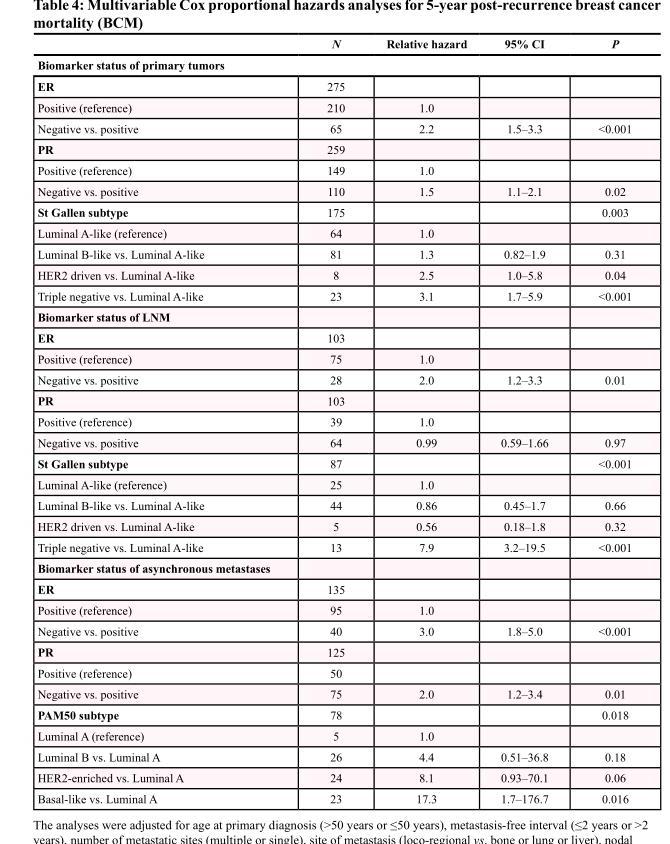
<table><thead><tr><td></td><td>N</td><td>Relative hazard</td><td>95% CI</td><td>P</td></tr></thead><tbody><tr><td colspan="5">Biomarker status of primary tumors</td></tr><tr><td>ER</td><td>275</td><td></td><td></td><td></td></tr><tr><td>Positive (reference)</td><td>210</td><td>1.0</td><td></td><td></td></tr><tr><td>Negative vs. positive</td><td>65</td><td>2.2</td><td>1.5–3.3</td><td>&lt;0.001</td></tr><tr><td>PR</td><td>259</td><td></td><td></td><td></td></tr><tr><td>Positive (reference)</td><td>149</td><td>1.0</td><td></td><td></td></tr><tr><td>Negative vs. positive</td><td>110</td><td>1.5</td><td>1.1–2.1</td><td>0.02</td></tr><tr><td>St Gallen subtype</td><td>175</td><td></td><td></td><td>0.003</td></tr><tr><td>Luminal A-like (reference)</td><td>64</td><td>1.0</td><td></td><td></td></tr><tr><td>Luminal B-like vs. Luminal A-like</td><td>81</td><td>1.3</td><td>0.82–1.9</td><td>0.31</td></tr><tr><td>HER2 driven vs. Luminal A-like</td><td>8</td><td>2.5</td><td>1.0–5.8</td><td>0.04</td></tr><tr><td>Triple negative vs. Luminal A-like</td><td>23</td><td>3.1</td><td>1.7–5.9</td><td>&lt;0.001</td></tr><tr><td colspan="5">Biomarker status of LNM</td></tr><tr><td>ER</td><td>103</td><td></td><td></td><td></td></tr><tr><td>Positive (reference)</td><td>75</td><td>1.0</td><td></td><td></td></tr><tr><td>Negative vs. positive</td><td>28</td><td>2.0</td><td>1.2–3.3</td><td>0.01</td></tr><tr><td>PR</td><td>103</td><td></td><td></td><td></td></tr><tr><td>Positive (reference)</td><td>39</td><td>1.0</td><td></td><td></td></tr><tr><td>Negative vs. positive</td><td>64</td><td>0.99</td><td>0.59–1.66</td><td>0.97</td></tr><tr><td>St Gallen subtype</td><td>87</td><td></td><td></td><td>&lt;0.001</td></tr><tr><td>Luminal A-like (reference)</td><td>25</td><td>1.0</td><td></td><td></td></tr><tr><td>Luminal B-like vs. Luminal A-like</td><td>44</td><td>0.86</td><td>0.45–1.7</td><td>0.66</td></tr><tr><td>HER2 driven vs. Luminal A-like</td><td>5</td><td>0.56</td><td>0.18–1.8</td><td>0.32</td></tr><tr><td>Triple negative vs. Luminal A-like</td><td>13</td><td>7.9</td><td>3.2–19.5</td><td>&lt;0.001</td></tr><tr><td colspan="5">Biomarker status of asynchronous metastases</td></tr><tr><td>ER</td><td>135</td><td></td><td></td><td></td></tr><tr><td>Positive (reference)</td><td>95</td><td>1.0</td><td></td><td></td></tr><tr><td>Negative vs. positive</td><td>40</td><td>3.0</td><td>1.8–5.0</td><td>&lt;0.001</td></tr><tr><td>PR</td><td>125</td><td></td><td></td><td></td></tr><tr><td>Positive (reference)</td><td>50</td><td></td><td></td><td></td></tr><tr><td>Negative vs. positive</td><td>75</td><td>2.0</td><td>1.2–3.4</td><td>0.01</td></tr><tr><td>PAM50 subtype</td><td>78</td><td></td><td></td><td>0.018</td></tr><tr><td>Luminal A (reference)</td><td>5</td><td>1.0</td><td></td><td></td></tr><tr><td>Luminal B vs. Luminal A</td><td>26</td><td>4.4</td><td>0.51–36.8</td><td>0.18</td></tr><tr><td>HER2-enriched vs. Luminal A</td><td>24</td><td>8.1</td><td>0.93–70.1</td><td>0.06</td></tr><tr><td>Basal-like vs. Luminal A</td><td>23</td><td>17.3</td><td>1.7–176.7</td><td>0.016</td></tr></tbody></table>